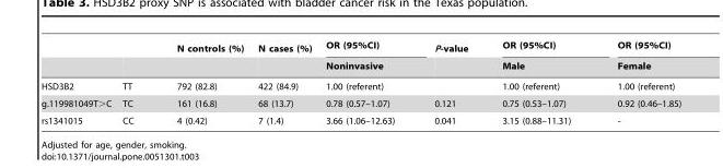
<table><thead><tr><td rowspan="2"></td><td rowspan="2"></td><td rowspan="2">N controls (%)</td><td rowspan="2">N cases (%)</td><td rowspan="2">OR (95%CI) Noninvasive</td><td rowspan="2">P-value</td><td rowspan="2">OR (95%CI) Male</td><td rowspan="2">OR (95%CI) Female</td></tr><tr></tr></thead><tbody><tr><td>HSD3B2</td><td>TT</td><td>792 (82.8)</td><td>422 (84.9)</td><td>1.00 (referent)</td><td></td><td>1.00 (referent)</td><td>1.00 (referent)</td></tr><tr><td>g.119981049T&gt;C</td><td>TC</td><td>161 (16.8)</td><td>68 (13.7)</td><td>0.78 (0.57–1.07)</td><td>0.121</td><td>0.75 (0.53–1.07)</td><td>0.92 (0.46–1.85)</td></tr><tr><td>rs1341015</td><td>CC</td><td>4 (0.42)</td><td>7 (1.4)</td><td>3.66 (1.06–12.63)</td><td>0.041</td><td>3.15 (0.88–11.31)</td><td>-</td></tr></tbody></table>